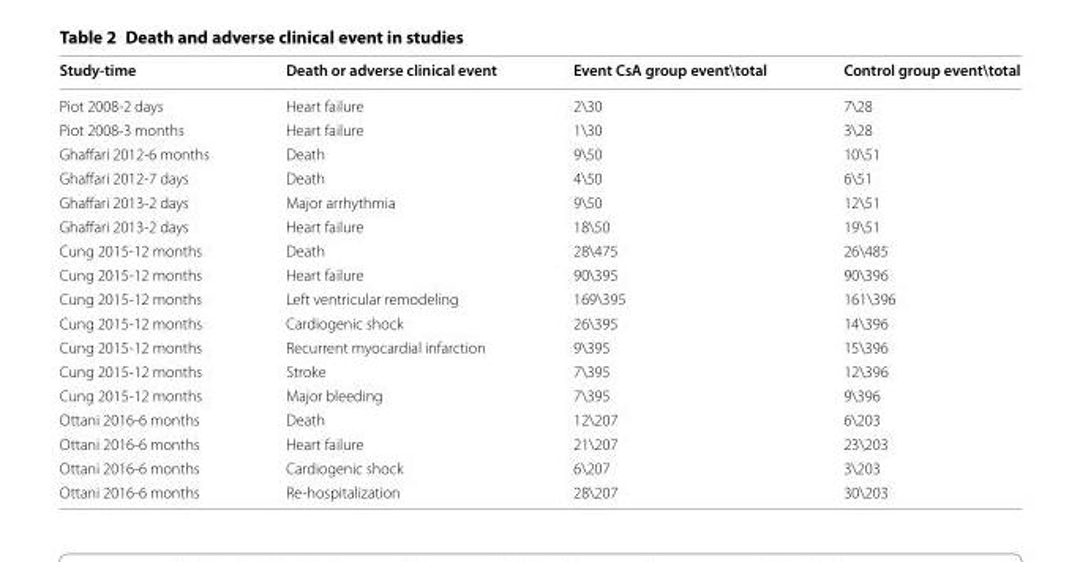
<table><thead><tr><td>Study-time</td><td>Death or adverse clinical event</td><td>Event CsA group event\total</td><td>Control group event\total</td></tr></thead><tbody><tr><td>Piot 2008-2 days</td><td>Heart failure</td><td>2\30</td><td>7\28</td></tr><tr><td>Piot 2008-3 months</td><td>Heart failure</td><td>1\30</td><td>3\28</td></tr><tr><td>Ghaffari 2012-6 months</td><td>Death</td><td>9\50</td><td>10\51</td></tr><tr><td>Ghaffari 2012-7 days</td><td>Death</td><td>4\50</td><td>6\51</td></tr><tr><td>Ghaffari 2013-2 days</td><td>Major arrhythmia</td><td>9\50</td><td>12\51</td></tr><tr><td>Ghaffari 2013-2 days</td><td>Heart failure</td><td>18\50</td><td>19\51</td></tr><tr><td>Cung 2015-12 months</td><td>Death</td><td>28\475</td><td>26\485</td></tr><tr><td>Cung 2015-12 months</td><td>Heart failure</td><td>90\395</td><td>90\396</td></tr><tr><td>Cung 2015-12 months</td><td>Left ventricular remodeling</td><td>169\395</td><td>161\396</td></tr><tr><td>Cung 2015-12 months</td><td>Cardiogenic shock</td><td>26\395</td><td>14\396</td></tr><tr><td>Cung 2015-12 months</td><td>Recurrent myocardial infarction</td><td>9\395</td><td>15\396</td></tr><tr><td>Cung 2015-12 months</td><td>Stroke</td><td>7\395</td><td>12\396</td></tr><tr><td>Cung 2015-12 months</td><td>Major bleeding</td><td>7\395</td><td>9\396</td></tr><tr><td>Ottani 2016-6 months</td><td>Death</td><td>12\207</td><td>6\203</td></tr><tr><td>Ottani 2016-6 months</td><td>Heart failure</td><td>21\207</td><td>23\203</td></tr><tr><td>Ottani 2016-6 months</td><td>Cardiogenic shock</td><td>6\207</td><td>3\203</td></tr><tr><td>Ottani 2016-6 months</td><td>Re-hospitalization</td><td>28\207</td><td>30\203</td></tr></tbody></table>